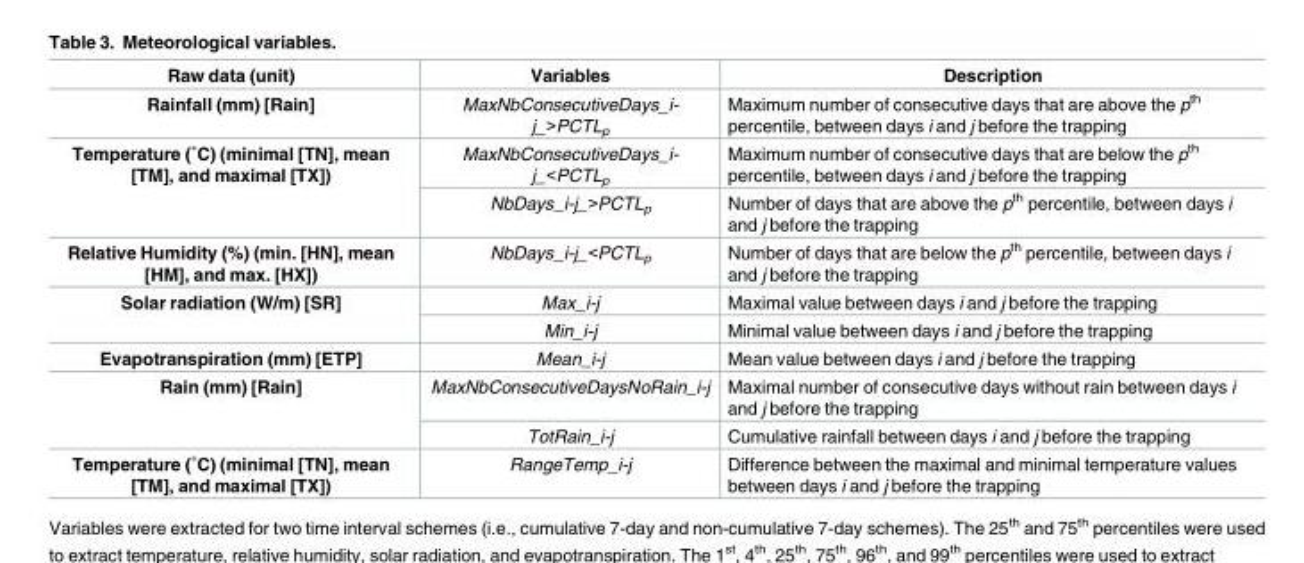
<table><thead><tr><td>Raw data (unit)</td><td>Variables</td><td>Description</td></tr></thead><tbody><tr><td>Rainfall (mm) [Rain]</td><td>MaxNbConsecutiveDays_i- j_&gt;PCTL<sub>p</sub></td><td>Maximum number of consecutive days that are above the p<sup>th</sup> percentile, between days i and j before the trapping</td></tr><tr><td rowspan="2">Temperature (˚C) (minimal [TN], mean [TM], and maximal [TX])</td><td>MaxNbConsecutiveDays_i- j_&lt;PCTL<sub>p</sub></td><td>Maximum number of consecutive days that are below the p<sup>th</sup> percentile, between days i and j before the trapping</td></tr><tr><td>NbDays_i-j_&gt;PCTL<sub>p</sub></td><td>Number of days that are above the p<sup>th</sup> percentile, between days i and j before the trapping</td></tr><tr><td>Relative Humidity (%) (min. [HN], mean [HM], and max. [HX])</td><td>NbDays_i-j_&lt;PCTL<sub>p</sub></td><td>Number of days that are below the p<sup>th</sup> percentile, between days i and j before the trapping</td></tr><tr><td rowspan="2">Solar radiation (W/m) [SR]</td><td>Max_i-j</td><td>Maximal value between days i and j before the trapping</td></tr><tr><td>Min_i-j</td><td>Minimal value between days i and j before the trapping</td></tr><tr><td>Evapotranspiration (mm) [ETP]</td><td>Mean_i-j</td><td>Mean value between days i and j before the trapping</td></tr><tr><td rowspan="2">Rain (mm) [Rain]</td><td>MaxNbConsecutiveDaysNoRain_i-j</td><td>Maximal number of consecutive days without rain between days i and j before the trapping</td></tr><tr><td>TotRain_i-j</td><td>Cumulative rainfall between days i and j before the trapping</td></tr><tr><td>Temperature (˚C) (minimal [TN], mean [TM], and maximal [TX])</td><td>RangeTemp_i-j</td><td>Difference between the maximal and minimal temperature values between days i and j before the trapping</td></tr></tbody></table>